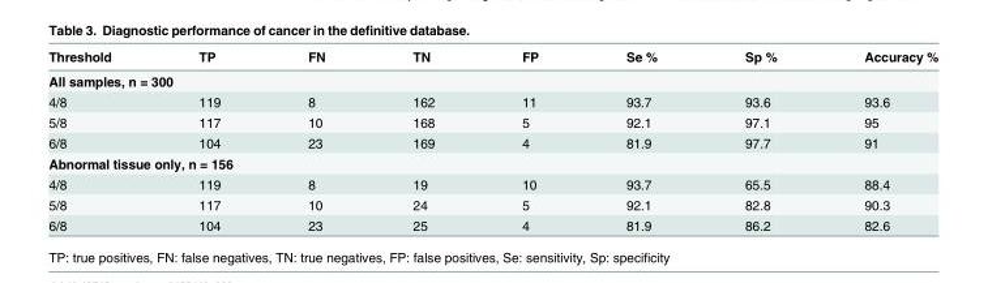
<table><thead><tr><td>Threshold</td><td>TP</td><td>FN</td><td>TN</td><td>FP</td><td>Se %</td><td>Sp %</td><td>Accuracy %</td></tr></thead><tbody><tr><td colspan="8">All samples, n = 300</td></tr><tr><td>4/8</td><td>119</td><td>8</td><td>162</td><td>11</td><td>93.7</td><td>93.6</td><td>93.6</td></tr><tr><td>5/8</td><td>117</td><td>10</td><td>168</td><td>5</td><td>92.1</td><td>97.1</td><td>95</td></tr><tr><td>6/8</td><td>104</td><td>23</td><td>169</td><td>4</td><td>81.9</td><td>97.7</td><td>91</td></tr><tr><td colspan="8">Abnormal tissue only, n = 156</td></tr><tr><td>4/8</td><td>119</td><td>8</td><td>19</td><td>10</td><td>93.7</td><td>65.5</td><td>88.4</td></tr><tr><td>5/8</td><td>117</td><td>10</td><td>24</td><td>5</td><td>92.1</td><td>82.8</td><td>90.3</td></tr><tr><td>6/8</td><td>104</td><td>23</td><td>25</td><td>4</td><td>81.9</td><td>86.2</td><td>82.6</td></tr></tbody></table>